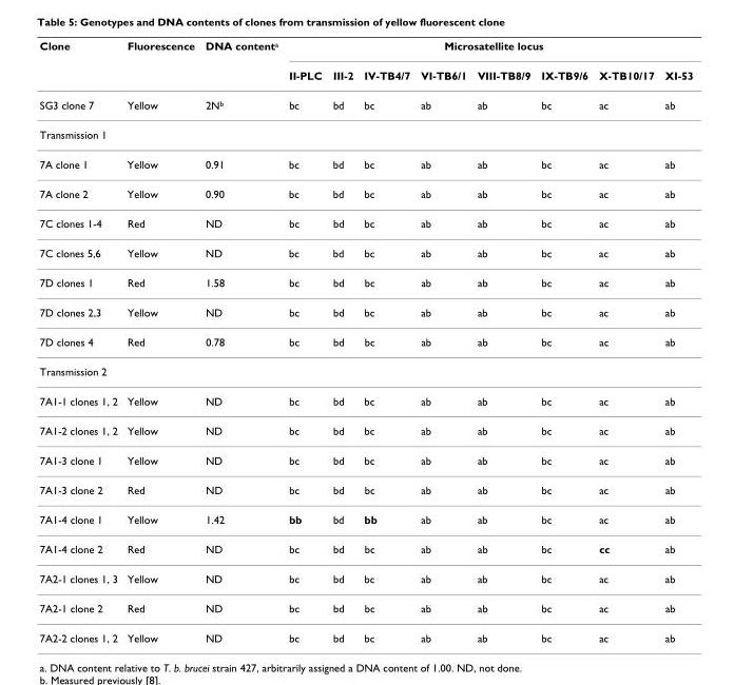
<table><thead><tr><td rowspan="2">Clone</td><td rowspan="2">Fluorescence</td><td rowspan="2">DNA content<sup>a</sup></td><td colspan="8">Microsatellite locus</td></tr><tr><td>II-PLC</td><td>III-2</td><td>IV-TB4/7</td><td>VI-TB6/1</td><td>VIII-TB8/9</td><td>IX-TB9/6</td><td>X-TB10/17</td><td>XI-53</td></tr></thead><tbody><tr><td>SG3 clone 7</td><td>Yellow</td><td>2N<sup>b</sup></td><td>bc</td><td>bd</td><td>bc</td><td>ab</td><td>ab</td><td>bc</td><td>ac</td><td>ab</td></tr><tr><td colspan="11">Transmission 1</td></tr><tr><td>7A clone 1</td><td>Yellow</td><td>0.91</td><td>bc</td><td>bd</td><td>bc</td><td>ab</td><td>ab</td><td>bc</td><td>ac</td><td>ab</td></tr><tr><td>7A clone 2</td><td>Yellow</td><td>0.90</td><td>bc</td><td>bd</td><td>bc</td><td>ab</td><td>ab</td><td>bc</td><td>ac</td><td>ab</td></tr><tr><td>7C clones 1-4</td><td>Red</td><td>ND</td><td>bc</td><td>bd</td><td>bc</td><td>ab</td><td>ab</td><td>bc</td><td>ac</td><td>ab</td></tr><tr><td>7C clones 5,6</td><td>Yellow</td><td>ND</td><td>bc</td><td>bd</td><td>bc</td><td>ab</td><td>ab</td><td>bc</td><td>ac</td><td>ab</td></tr><tr><td>7D clones 1</td><td>Red</td><td>1.58</td><td>bc</td><td>bd</td><td>bc</td><td>ab</td><td>ab</td><td>bc</td><td>ac</td><td>ab</td></tr><tr><td>7D clones 2,3</td><td>Yellow</td><td>ND</td><td>bc</td><td>bd</td><td>bc</td><td>ab</td><td>ab</td><td>bc</td><td>ac</td><td>ab</td></tr><tr><td>7D clones 4</td><td>Red</td><td>0.78</td><td>bc</td><td>bd</td><td>bc</td><td>ab</td><td>ab</td><td>bc</td><td>ac</td><td>ab</td></tr><tr><td colspan="11">Transmission 2</td></tr><tr><td>7A1-1 clones 1, 2</td><td>Yellow</td><td>ND</td><td>bc</td><td>bd</td><td>bc</td><td>ab</td><td>ab</td><td>bc</td><td>ac</td><td>ab</td></tr><tr><td>7A1-2 clones 1, 2</td><td>Yellow</td><td>ND</td><td>bc</td><td>bd</td><td>bc</td><td>ab</td><td>ab</td><td>bc</td><td>ac</td><td>ab</td></tr><tr><td>7A1-3 clone 1</td><td>Yellow</td><td>ND</td><td>bc</td><td>bd</td><td>bc</td><td>ab</td><td>ab</td><td>bc</td><td>ac</td><td>ab</td></tr><tr><td>7A1-3 clone 2</td><td>Red</td><td>ND</td><td>bc</td><td>bd</td><td>bc</td><td>ab</td><td>ab</td><td>bc</td><td>ac</td><td>ab</td></tr><tr><td>7A1-4 clone 1</td><td>Yellow</td><td>1.42</td><td>bb</td><td>bd</td><td>bb</td><td>ab</td><td>ab</td><td>bc</td><td>ac</td><td>ab</td></tr><tr><td>7A1-4 clone 2</td><td>Red</td><td>ND</td><td>bc</td><td>bd</td><td>bc</td><td>ab</td><td>ab</td><td>bc</td><td>cc</td><td>ab</td></tr><tr><td>7A2-1 clones 1, 3</td><td>Yellow</td><td>ND</td><td>bc</td><td>bd</td><td>bc</td><td>ab</td><td>ab</td><td>bc</td><td>ac</td><td>ab</td></tr><tr><td>7A2-1 clone 2</td><td>Red</td><td>ND</td><td>bc</td><td>bd</td><td>bc</td><td>ab</td><td>ab</td><td>bc</td><td>ac</td><td>ab</td></tr><tr><td>7A2-2 clones 1, 2</td><td>Yellow</td><td>ND</td><td>bc</td><td>bd</td><td>bc</td><td>ab</td><td>ab</td><td>bc</td><td>ac</td><td>ab</td></tr></tbody></table>